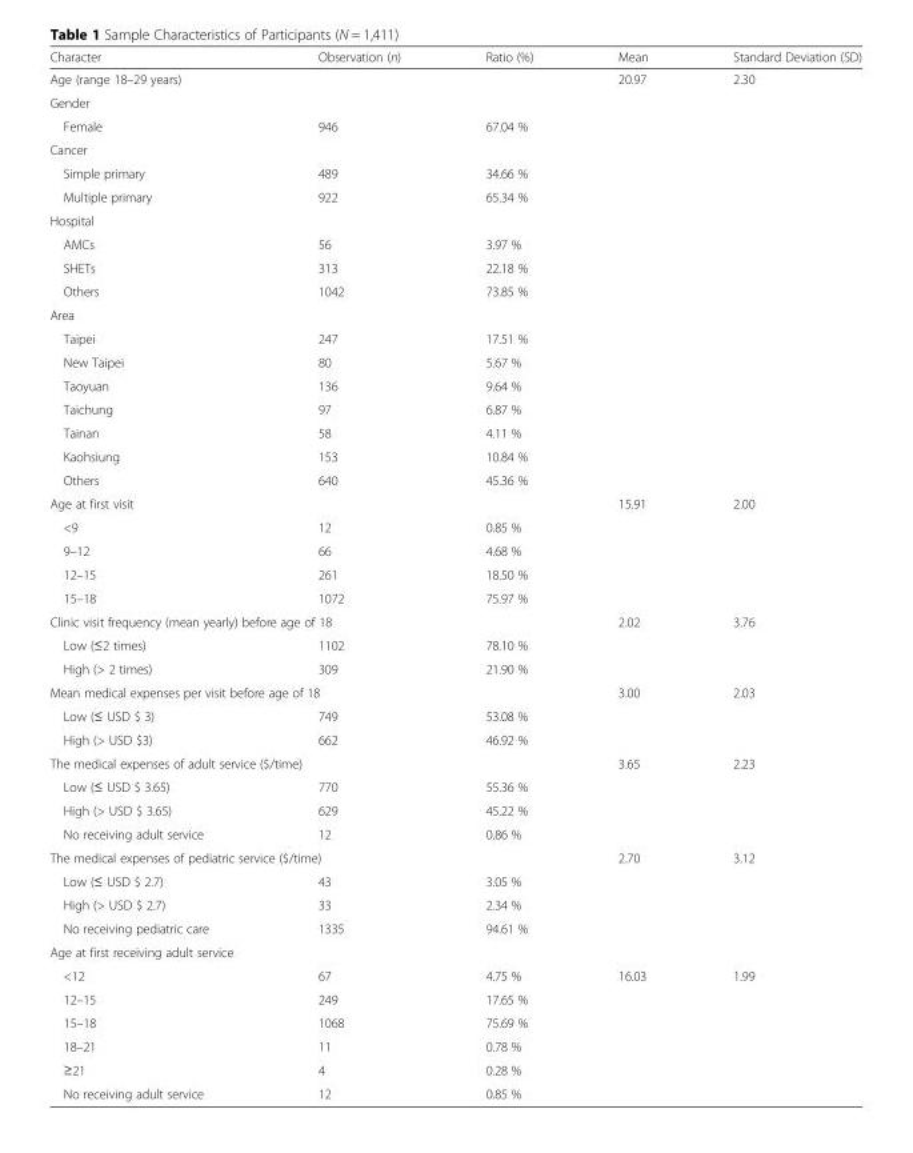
<table><thead><tr><td>Character</td><td>Observation (n)</td><td>Ratio (%)</td><td>Mean</td><td>Standard Deviation (SD)</td></tr></thead><tbody><tr><td>Age (range 18–29 years)</td><td></td><td></td><td>20.97</td><td>2.30</td></tr><tr><td colspan="5">Gender</td></tr><tr><td>Female</td><td>946</td><td>67.04 %</td><td></td><td></td></tr><tr><td colspan="5">Cancer</td></tr><tr><td>Simple primary</td><td>489</td><td>34.66 %</td><td></td><td></td></tr><tr><td>Multiple primary</td><td>922</td><td>65.34 %</td><td></td><td></td></tr><tr><td colspan="5">Hospital</td></tr><tr><td>AMCs</td><td>56</td><td>3.97 %</td><td></td><td></td></tr><tr><td>SHETs</td><td>313</td><td>22.18 %</td><td></td><td></td></tr><tr><td>Others</td><td>1042</td><td>73.85 %</td><td></td><td></td></tr><tr><td colspan="5">Area</td></tr><tr><td>Taipei</td><td>247</td><td>17.51 %</td><td></td><td></td></tr><tr><td>New Taipei</td><td>80</td><td>5.67 %</td><td></td><td></td></tr><tr><td>Taoyuan</td><td>136</td><td>9.64 %</td><td></td><td></td></tr><tr><td>Taichung</td><td>97</td><td>6.87 %</td><td></td><td></td></tr><tr><td>Tainan</td><td>58</td><td>4.11 %</td><td></td><td></td></tr><tr><td>Kaohsiung</td><td>153</td><td>10.84 %</td><td></td><td></td></tr><tr><td>Others</td><td>640</td><td>45.36 %</td><td></td><td></td></tr><tr><td colspan="2">Age at first visit</td><td></td><td>15.91</td><td>2.00</td></tr><tr><td>&lt;9</td><td>12</td><td>0.85 %</td><td></td><td></td></tr><tr><td>9–12</td><td>66</td><td>4.68 %</td><td></td><td></td></tr><tr><td>12–15</td><td>261</td><td>18.50 %</td><td></td><td></td></tr><tr><td>15–18</td><td>1072</td><td>75.97 %</td><td></td><td></td></tr><tr><td colspan="3">Clinic visit frequency (mean yearly) before age of 18</td><td>2.02</td><td>3.76</td></tr><tr><td>Low (≤2 times)</td><td>1102</td><td>78.10 %</td><td></td><td></td></tr><tr><td>High (&gt; 2 times)</td><td>309</td><td>21.90 %</td><td></td><td></td></tr><tr><td colspan="3">Mean medical expenses per visit before age of 18</td><td>3.00</td><td>2.03</td></tr><tr><td>Low (≤ USD $ 3)</td><td>749</td><td>53.08 %</td><td></td><td></td></tr><tr><td>High (&gt; USD $3)</td><td>662</td><td>46.92 %</td><td></td><td></td></tr><tr><td colspan="3">The medical expenses of adult service ($/time)</td><td>3.65</td><td>2.23</td></tr><tr><td>Low (≤ USD $ 3.65)</td><td>770</td><td>55.36 %</td><td></td><td></td></tr><tr><td>High (&gt; USD $ 3.65)</td><td>629</td><td>45.22 %</td><td></td><td></td></tr><tr><td>No receiving adult service</td><td>12</td><td>0.86 %</td><td></td><td></td></tr><tr><td colspan="3">The medical expenses of pediatric service ($/time)</td><td>2.70</td><td>3.12</td></tr><tr><td>Low (≤ USD $ 2.7)</td><td>43</td><td>3.05 %</td><td></td><td></td></tr><tr><td>High (&gt; USD $ 2.7)</td><td>33</td><td>2.34 %</td><td></td><td></td></tr><tr><td>No receiving pediatric care</td><td>1335</td><td>94.61 %</td><td></td><td></td></tr><tr><td colspan="5">Age at first receiving adult service</td></tr><tr><td>&lt;12</td><td>67</td><td>4.75 %</td><td>16.03</td><td>1.99</td></tr><tr><td>12–15</td><td>249</td><td>17.65 %</td><td></td><td></td></tr><tr><td>15–18</td><td>1068</td><td>75.69 %</td><td></td><td></td></tr><tr><td>18–21</td><td>11</td><td>0.78 %</td><td></td><td></td></tr><tr><td>≥21</td><td>4</td><td>0.28 %</td><td></td><td></td></tr><tr><td>No receiving adult service</td><td>12</td><td>0.85 %</td><td></td><td></td></tr></tbody></table>